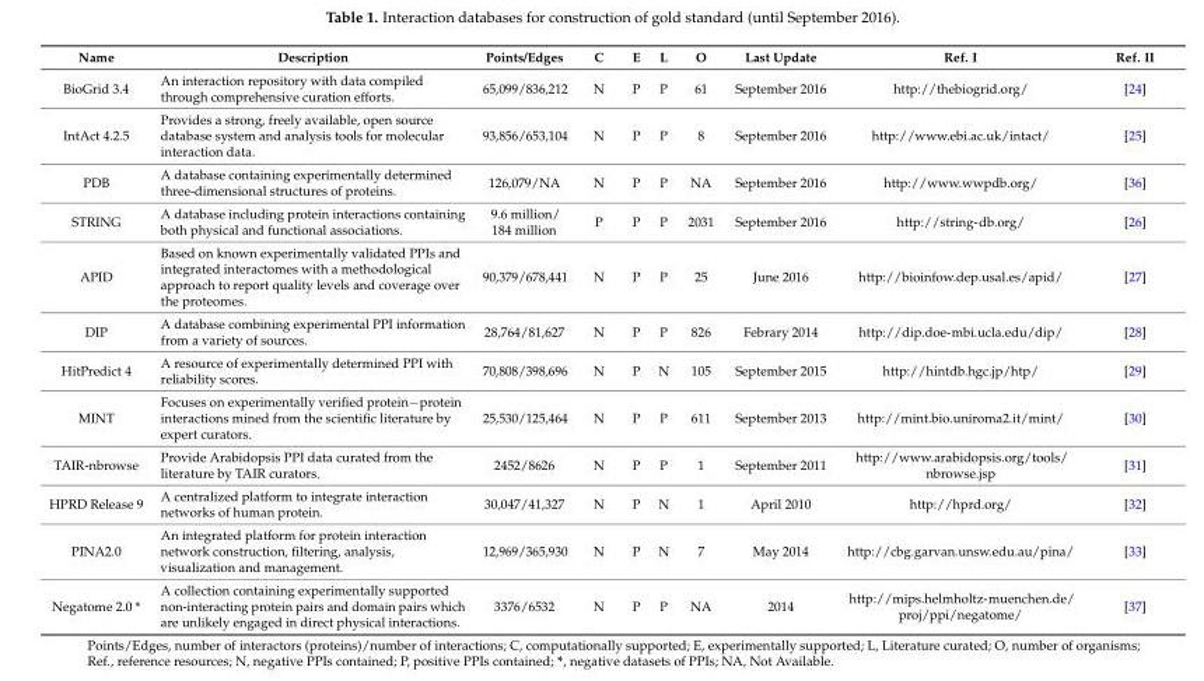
<table><thead><tr><td>Name</td><td>Description</td><td>Points/Edges</td><td>C</td><td>E</td><td>L</td><td>O</td><td>Last Update</td><td>Ref. I</td><td>Ref. II</td></tr></thead><tbody><tr><td>BioGrid 3.4</td><td>An interaction repository with data compiled through comprehensive curation efforts.</td><td>65,099/836,212</td><td>N</td><td>P</td><td>P</td><td>61</td><td>September 2016</td><td>http://thebiogrid.org/</td><td>[24]</td></tr><tr><td>IntAct 4.2.5</td><td>Provides a strong, freely available, open source database system and analysis tools for molecular interaction data.</td><td>93,856/653,104</td><td>N</td><td>P</td><td>P</td><td>8</td><td>September 2016</td><td>http://www.ebi.ac.uk/intact/</td><td>[25]</td></tr><tr><td>PDB</td><td>A database containing experimentally determined three-dimensional structures of proteins.</td><td>126,079/NA</td><td>N</td><td>P</td><td>P</td><td>NA</td><td>September 2016</td><td>http://www.wwpdb.org/</td><td>[36]</td></tr><tr><td>STRING</td><td>A database including protein interactions containing both physical and functional associations.</td><td>9.6 million/ 184 million</td><td>P</td><td>P</td><td>P</td><td>2031</td><td>September 2016</td><td>http://string-db.org/</td><td>[26]</td></tr><tr><td>APID</td><td>Based on known experimentally validated PPIs and integrated interactomes with a methodological approach to report quality levels and coverage over the proteomes.</td><td>90,379/678,441</td><td>N</td><td>P</td><td>P</td><td>25</td><td>June 2016</td><td>http://bioinfow.dep.usal.es/apid/</td><td>[27]</td></tr><tr><td>DIP</td><td>A database combining experimental PPI information from a variety of sources.</td><td>28,764/81,627</td><td>N</td><td>P</td><td>P</td><td>826</td><td>Febrary 2014</td><td>http://dip.doe-mbi.ucla.edu/dip/</td><td>[28]</td></tr><tr><td>HitPredict 4</td><td>A resource of experimentally determined PPI with reliability scores.</td><td>70,808/398,696</td><td>N</td><td>P</td><td>N</td><td>105</td><td>September 2015</td><td>http://hintdb.hgc.jp/htp/</td><td>[29]</td></tr><tr><td>MINT</td><td>Focuses on experimentally verified protein−protein interactions mined from the scientific literature by expert curators.</td><td>25,530/125,464</td><td>N</td><td>P</td><td>P</td><td>611</td><td>September 2013</td><td>http://mint.bio.uniroma2.it/mint/</td><td>[30]</td></tr><tr><td>TAIR-nbrowse</td><td>Provide Arabidopsis PPI data curated from the literature by TAIR curators.</td><td>2452/8626</td><td>N</td><td>P</td><td>P</td><td>1</td><td>September 2011</td><td>http://www.arabidopsis.org/tools/ nbrowse.jsp</td><td>[31]</td></tr><tr><td>HPRD Release 9</td><td>A centralized platform to integrate interaction networks of human protein.</td><td>30,047/41,327</td><td>N</td><td>P</td><td>N</td><td>1</td><td>April 2010</td><td>http://hprd.org/</td><td>[32]</td></tr><tr><td>PINA2.0</td><td>An integrated platform for protein interaction network construction, filtering, analysis, visualization and management.</td><td>12,969/365,930</td><td>N</td><td>P</td><td>N</td><td>7</td><td>May 2014</td><td>http://cbg.garvan.unsw.edu.au/pina/</td><td>[33]</td></tr><tr><td>Negatome 2.0 *</td><td>A collection containing experimentally supported non-interacting protein pairs and domain pairs which are unlikely engaged in direct physical interactions.</td><td>3376/6532</td><td>N</td><td>P</td><td>P</td><td>NA</td><td>2014</td><td>http://mips.helmholtz-muenchen.de/ proj/ppi/negatome/</td><td>[37]</td></tr></tbody></table>